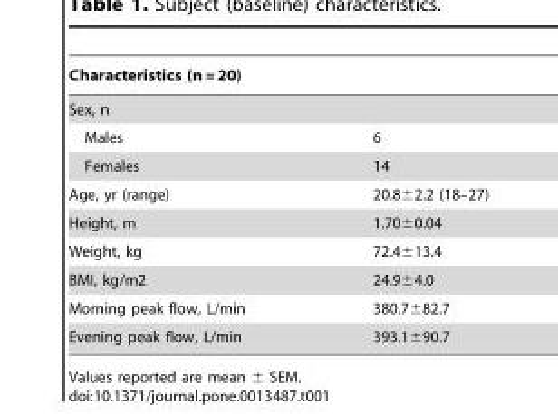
<table><thead><tr><td>Characteristics (n = 20)</td><td></td></tr></thead><tbody><tr><td colspan="2">Sex, n</td></tr><tr><td>Males</td><td>6</td></tr><tr><td>Females</td><td>14</td></tr><tr><td>Age, yr (range)</td><td>20.8±2.2 (18–27)</td></tr><tr><td>Height, m</td><td>1.70±0.04</td></tr><tr><td>Weight, kg</td><td>72.4±13.4</td></tr><tr><td>BMI, kg/m2</td><td>24.9±4.0</td></tr><tr><td>Morning peak flow, L/min</td><td>380.7±82.7</td></tr><tr><td>Evening peak flow, L/min</td><td>393.1±90.7</td></tr></tbody></table>